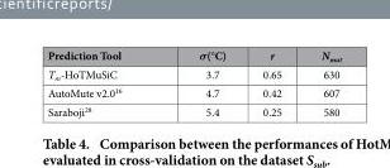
<table><thead><tr><td>Prediction Tool</td><td>σ(°C)</td><td>r</td><td>N<sub>mut</sub></td></tr></thead><tbody><tr><td>T<sub>m</sub>-HoTMuSiC</td><td>3.7</td><td>0.65</td><td>630</td></tr><tr><td>AutoMute v2.0<sup>16</sup></td><td>4.7</td><td>0.42</td><td>607</td></tr><tr><td>Saraboji<sup>28</sup></td><td>5.4</td><td>0.25</td><td>580</td></tr></tbody></table>